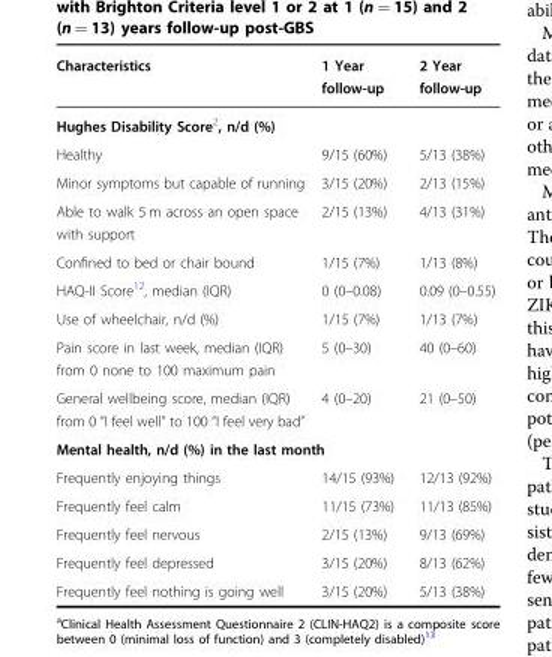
<table><thead><tr><td>Characteristics</td><td>1 Year follow-up</td><td>2 Year follow-up</td></tr></thead><tbody><tr><td colspan="3">Hughes Disability Score<sup>2</sup>, n/d (%)</td></tr><tr><td>Healthy</td><td>9/15 (60%)</td><td>5/13 (38%)</td></tr><tr><td>Minor symptoms but capable of running</td><td>3/15 (20%)</td><td>2/13 (15%)</td></tr><tr><td>Able to walk 5 m across an open space with support</td><td>2/15 (13%)</td><td>4/13 (31%)</td></tr><tr><td>Confined to bed or chair bound</td><td>1/15 (7%)</td><td>1/13 (8%)</td></tr><tr><td>HAQ-II Score<sup>12</sup>, median (IQR)</td><td>0 (0–0.08)</td><td>0.09 (0–0.55)</td></tr><tr><td>Use of wheelchair, n/d (%)</td><td>1/15 (7%)</td><td>1/13 (7%)</td></tr><tr><td>Pain score in last week, median (IQR) from 0 none to 100 maximum pain</td><td>5 (0–30)</td><td>40 (0–60)</td></tr><tr><td>General wellbeing score, median (IQR) from 0 “I feel well” to 100 “I feel very bad”</td><td>4 (0–20)</td><td>21 (0–50)</td></tr><tr><td colspan="3">Mental health, n/d (%) in the last month</td></tr><tr><td>Frequently enjoying things</td><td>14/15 (93%)</td><td>12/13 (92%)</td></tr><tr><td>Frequently feel calm</td><td>11/15 (73%)</td><td>11/13 (85%)</td></tr><tr><td>Frequently feel nervous</td><td>2/15 (13%)</td><td>9/13 (69%)</td></tr><tr><td>Frequently feel depressed</td><td>3/15 (20%)</td><td>8/13 (62%)</td></tr><tr><td>Frequently feel nothing is going well</td><td>3/15 (20%)</td><td>5/13 (38%)</td></tr></tbody></table>